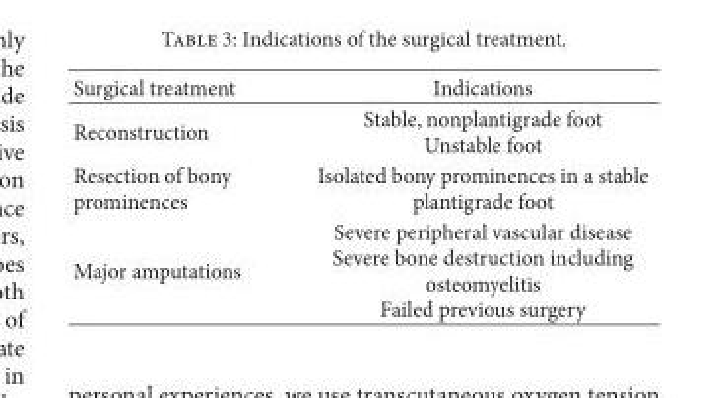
<table><thead><tr><td>Surgical treatment</td><td>Indications</td></tr></thead><tbody><tr><td>Reconstruction</td><td>Stable, nonplantigrade foot Unstable foot</td></tr><tr><td>Resection of bony prominences</td><td>Isolated bony prominences in a stable plantigrade foot</td></tr><tr><td>Major amputations</td><td>Severe peripheral vascular disease Severe bone destruction including osteomyelitis Failed previous surgery</td></tr></tbody></table>